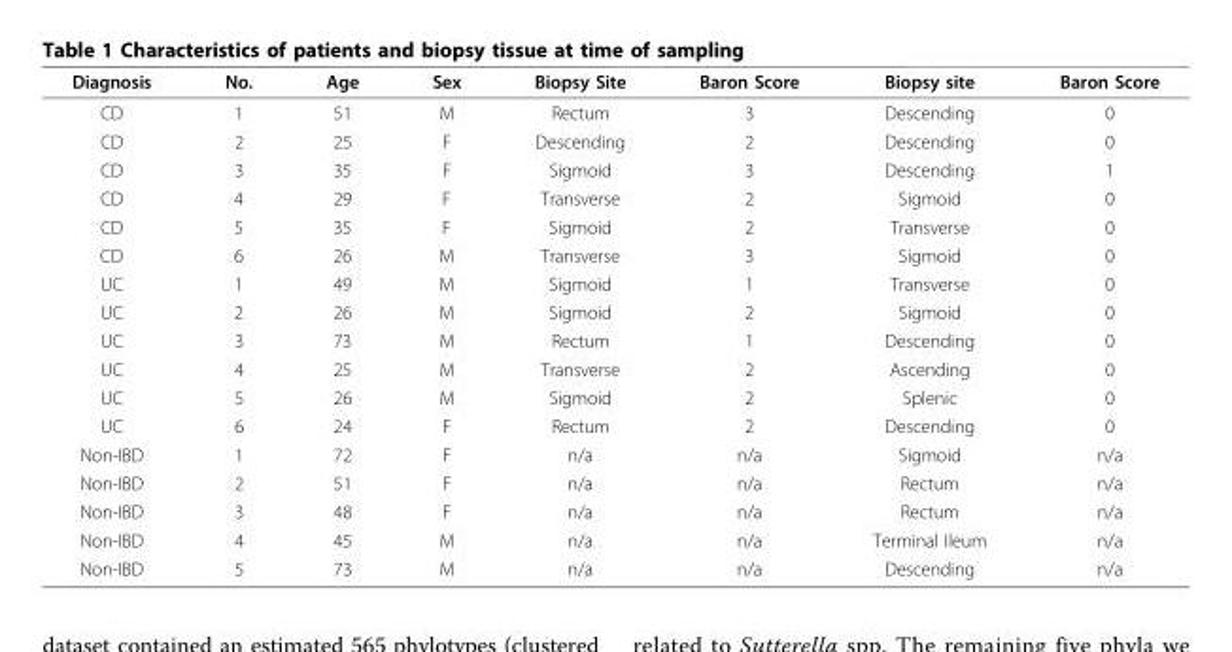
<table><thead><tr><td>Diagnosis</td><td>No.</td><td>Age</td><td>Sex</td><td>Biopsy Site</td><td>Baron Score</td><td>Biopsy site</td><td>Baron Score</td></tr></thead><tbody><tr><td>CD</td><td>1</td><td>51</td><td>M</td><td>Rectum</td><td>3</td><td>Descending</td><td>0</td></tr><tr><td>CD</td><td>2</td><td>25</td><td>F</td><td>Descending</td><td>2</td><td>Descending</td><td>0</td></tr><tr><td>CD</td><td>3</td><td>35</td><td>F</td><td>Sigmoid</td><td>3</td><td>Descending</td><td>1</td></tr><tr><td>CD</td><td>4</td><td>29</td><td>F</td><td>Transverse</td><td>2</td><td>Sigmoid</td><td>0</td></tr><tr><td>CD</td><td>5</td><td>35</td><td>F</td><td>Sigmoid</td><td>2</td><td>Transverse</td><td>0</td></tr><tr><td>CD</td><td>6</td><td>26</td><td>M</td><td>Transverse</td><td>3</td><td>Sigmoid</td><td>0</td></tr><tr><td>UC</td><td>1</td><td>49</td><td>M</td><td>Sigmoid</td><td>1</td><td>Transverse</td><td>0</td></tr><tr><td>UC</td><td>2</td><td>26</td><td>M</td><td>Sigmoid</td><td>2</td><td>Sigmoid</td><td>0</td></tr><tr><td>UC</td><td>3</td><td>73</td><td>M</td><td>Rectum</td><td>1</td><td>Descending</td><td>0</td></tr><tr><td>UC</td><td>4</td><td>25</td><td>M</td><td>Transverse</td><td>2</td><td>Ascending</td><td>0</td></tr><tr><td>UC</td><td>5</td><td>26</td><td>M</td><td>Sigmoid</td><td>2</td><td>Splenic</td><td>0</td></tr><tr><td>UC</td><td>6</td><td>24</td><td>F</td><td>Rectum</td><td>2</td><td>Descending</td><td>0</td></tr><tr><td>Non-IBD</td><td>1</td><td>72</td><td>F</td><td>n/a</td><td>n/a</td><td>Sigmoid</td><td>n/a</td></tr><tr><td>Non-IBD</td><td>2</td><td>51</td><td>F</td><td>n/a</td><td>n/a</td><td>Rectum</td><td>n/a</td></tr><tr><td>Non-IBD</td><td>3</td><td>48</td><td>F</td><td>n/a</td><td>n/a</td><td>Rectum</td><td>n/a</td></tr><tr><td>Non-IBD</td><td>4</td><td>45</td><td>M</td><td>n/a</td><td>n/a</td><td>Terminal Ileum</td><td>n/a</td></tr><tr><td>Non-IBD</td><td>5</td><td>73</td><td>M</td><td>n/a</td><td>n/a</td><td>Descending</td><td>n/a</td></tr></tbody></table>